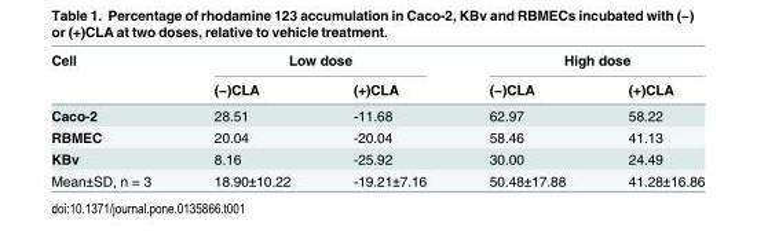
<table><thead><tr><td rowspan="2">Cell</td><td colspan="2">Low dose</td><td colspan="2">High dose</td></tr><tr><td>(−)CLA</td><td>(+)CLA</td><td>(−)CLA</td><td>(+)CLA</td></tr></thead><tbody><tr><td>Caco-2</td><td>28.51</td><td>-11.68</td><td>62.97</td><td>58.22</td></tr><tr><td>RBMEC</td><td>20.04</td><td>-20.04</td><td>58.46</td><td>41.13</td></tr><tr><td>KBv</td><td>8.16</td><td>-25.92</td><td>30.00</td><td>24.49</td></tr><tr><td>Mean±SD, n = 3</td><td>18.90±10.22</td><td>-19.21±7.16</td><td>50.48±17.88</td><td>41.28±16.86</td></tr></tbody></table>